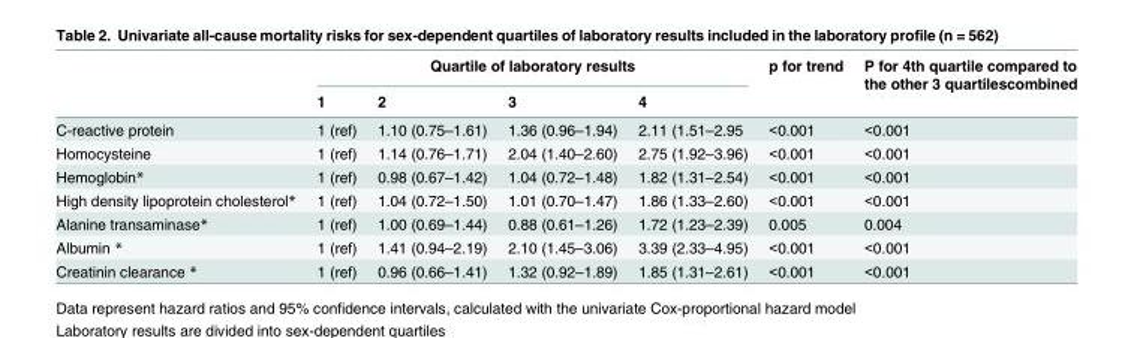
<table><thead><tr><td rowspan="2"></td><td colspan="4">Quartile of laboratory results</td><td rowspan="2">p for trend</td><td rowspan="2">P for 4th quartile compared to the other 3 quartilescombined</td></tr><tr><td>1</td><td>2</td><td>3</td><td>4</td></tr></thead><tbody><tr><td>C-reactive protein</td><td>1 (ref)</td><td>1.10 (0.75–1.61)</td><td>1.36 (0.96–1.94)</td><td>2.11 (1.51–2.95</td><td>&lt;0.001</td><td>&lt;0.001</td></tr><tr><td>Homocysteine</td><td>1 (ref)</td><td>1.14 (0.76–1.71)</td><td>2.04 (1.40–2.60)</td><td>2.75 (1.92–3.96)</td><td>&lt;0.001</td><td>&lt;0.001</td></tr><tr><td>Hemoglobin*</td><td>1 (ref)</td><td>0.98 (0.67–1.42)</td><td>1.04 (0.72–1.48)</td><td>1.82 (1.31–2.54)</td><td>&lt;0.001</td><td>&lt;0.001</td></tr><tr><td>High density lipoprotein cholesterol*</td><td>1 (ref)</td><td>1.04 (0.72–1.50)</td><td>1.01 (0.70–1.47)</td><td>1.86 (1.33–2.60)</td><td>&lt;0.001</td><td>&lt;0.001</td></tr><tr><td>Alanine transaminase*</td><td>1 (ref)</td><td>1.00 (0.69–1.44)</td><td>0.88 (0.61–1.26)</td><td>1.72 (1.23–2.39)</td><td>0.005</td><td>0.004</td></tr><tr><td>Albumin *</td><td>1 (ref)</td><td>1.41 (0.94–2.19)</td><td>2.10 (1.45–3.06)</td><td>3.39 (2.33–4.95)</td><td>&lt;0.001</td><td>&lt;0.001</td></tr><tr><td>Creatinin clearance *</td><td>1 (ref)</td><td>0.96 (0.66–1.41)</td><td>1.32 (0.92–1.89)</td><td>1.85 (1.31–2.61)</td><td>&lt;0.001</td><td>&lt;0.001</td></tr></tbody></table>